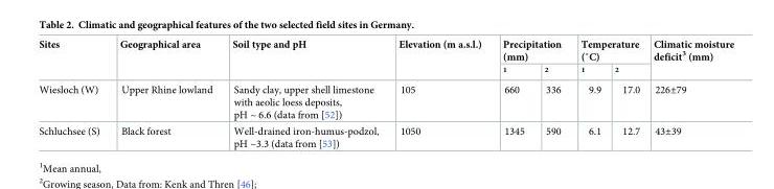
<table><thead><tr><td rowspan="2">Sites</td><td rowspan="2">Geographical area</td><td rowspan="2">Soil type and pH</td><td rowspan="2">Elevation (m a.s.l.)</td><td colspan="2">Precipitation (mm)</td><td colspan="2">Temperature (˚C)</td><td rowspan="2">Climatic moisture deficit<sup>3</sup> (mm)</td></tr><tr><td><sup>1</sup></td><td><sup>2</sup></td><td><sup>1</sup></td><td><sup>2</sup></td></tr></thead><tbody><tr><td>Wiesloch (W)</td><td>Upper Rhine lowland</td><td>Sandy clay, upper shell limestone with aeolic loess deposits, pH ~ 6.6 (data from [52])</td><td>105</td><td>660</td><td>336</td><td>9.9</td><td>17.0</td><td>226±79</td></tr><tr><td>Schluchsee (S)</td><td>Black forest</td><td>Well-drained iron-humus-podzol, pH ~3.3 (data from [53])</td><td>1050</td><td>1345</td><td>590</td><td>6.1</td><td>12.7</td><td>43±39</td></tr></tbody></table>